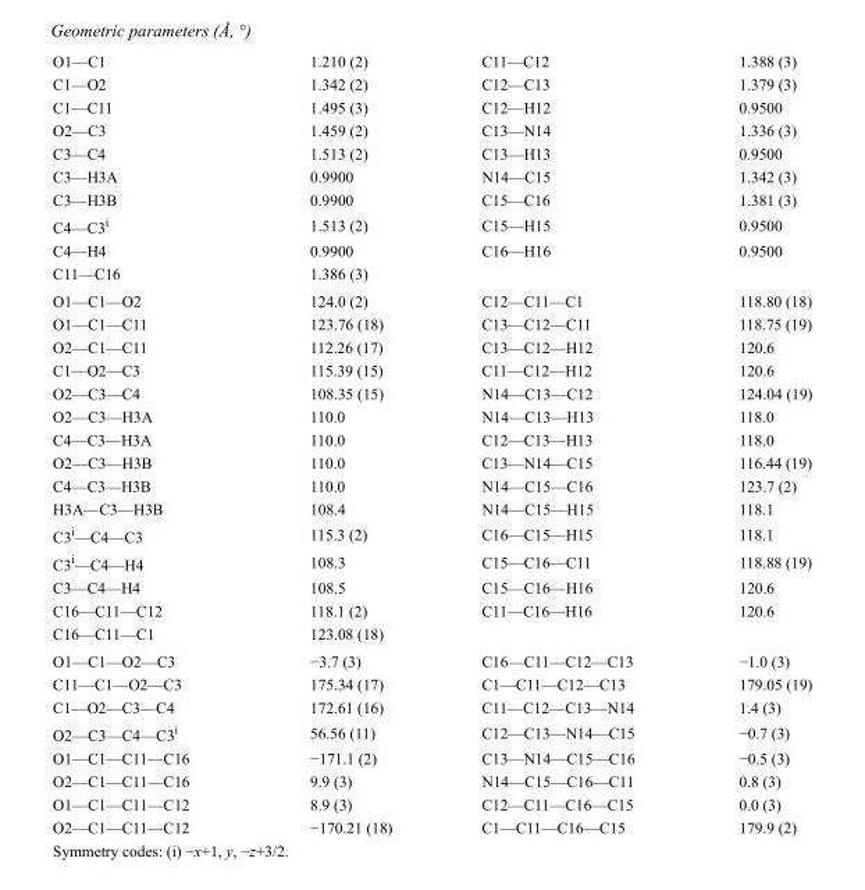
<table><tbody><tr><td>O1—C1</td><td>1.210 (2)</td><td>C11—C12</td><td>1.388 (3)</td></tr><tr><td>C1—O2</td><td>1.342 (2)</td><td>C12—C13</td><td>1.379 (3)</td></tr><tr><td>C1—C11</td><td>1.495 (3)</td><td>C12—H12</td><td>0.9500</td></tr><tr><td>O2—C3</td><td>1.459 (2)</td><td>C13—N14</td><td>1.336 (3)</td></tr><tr><td>C3—C4</td><td>1.513 (2)</td><td>C13—H13</td><td>0.9500</td></tr><tr><td>C3—H3A</td><td>0.9900</td><td>N14—C15</td><td>1.342 (3)</td></tr><tr><td>C3—H3B</td><td>0.9900</td><td>C15—C16</td><td>1.381 (3)</td></tr><tr><td>C4—C3<sup>i</sup></td><td>1.513 (2)</td><td>C15—H15</td><td>0.9500</td></tr><tr><td>C4—H4</td><td>0.9900</td><td>C16—H16</td><td>0.9500</td></tr><tr><td>C11—C16</td><td>1.386 (3)</td><td></td><td></td></tr><tr><td>O1—C1—O2</td><td>124.0 (2)</td><td>C12—C11—C1</td><td>118.80 (18)</td></tr><tr><td>O1—C1—C11</td><td>123.76 (18)</td><td>C13—C12—C11</td><td>118.75 (19)</td></tr><tr><td>O2—C1—C11</td><td>112.26 (17)</td><td>C13—C12—H12</td><td>120.6</td></tr><tr><td>C1—O2—C3</td><td>115.39 (15)</td><td>C11—C12—H12</td><td>120.6</td></tr><tr><td>O2—C3—C4</td><td>108.35 (15)</td><td>N14—C13—C12</td><td>124.04 (19)</td></tr><tr><td>O2—C3—H3A</td><td>110.0</td><td>N14—C13—H13</td><td>118.0</td></tr><tr><td>C4—C3—H3A</td><td>110.0</td><td>C12—C13—H13</td><td>118.0</td></tr><tr><td>O2—C3—H3B</td><td>110.0</td><td>C13—N14—C15</td><td>116.44 (19)</td></tr><tr><td>C4—C3—H3B</td><td>110.0</td><td>N14—C15—C16</td><td>123.7 (2)</td></tr><tr><td>H3A—C3—H3B</td><td>108.4</td><td>N14—C15—H15</td><td>118.1</td></tr><tr><td>C3<sup>i</sup>—C4—C3</td><td>115.3 (2)</td><td>C16—C15—H15</td><td>118.1</td></tr><tr><td>C3<sup>i</sup>—C4—H4</td><td>108.3</td><td>C15—C16—C11</td><td>118.88 (19)</td></tr><tr><td>C3—C4—H4</td><td>108.5</td><td>C15—C16—H16</td><td>120.6</td></tr><tr><td>C16—C11—C12</td><td>118.1 (2)</td><td>C11—C16—H16</td><td>120.6</td></tr><tr><td>C16—C11—C1</td><td>123.08 (18)</td><td></td><td></td></tr><tr><td>O1—C1—O2—C3</td><td>−3.7 (3)</td><td>C16—C11—C12—C13</td><td>−1.0 (3)</td></tr><tr><td>C11—C1—O2—C3</td><td>175.34 (17)</td><td>C1—C11—C12—C13</td><td>179.05 (19)</td></tr><tr><td>C1—O2—C3—C4</td><td>172.61 (16)</td><td>C11—C12—C13—N14</td><td>1.4 (3)</td></tr><tr><td>O2—C3—C4—C3<sup>i</sup></td><td>56.56 (11)</td><td>C12—C13—N14—C15</td><td>−0.7 (3)</td></tr><tr><td>O1—C1—C11—C16</td><td>−171.1 (2)</td><td>C13—N14—C15—C16</td><td>−0.5 (3)</td></tr><tr><td>O2—C1—C11—C16</td><td>9.9 (3)</td><td>N14—C15—C16—C11</td><td>0.8 (3)</td></tr><tr><td>O1—C1—C11—C12</td><td>8.9 (3)</td><td>C12—C11—C16—C15</td><td>0.0 (3)</td></tr><tr><td>O2—C1—C11—C12</td><td>−170.21 (18)</td><td>C1—C11—C16—C15</td><td>179.9 (2)</td></tr></tbody></table>